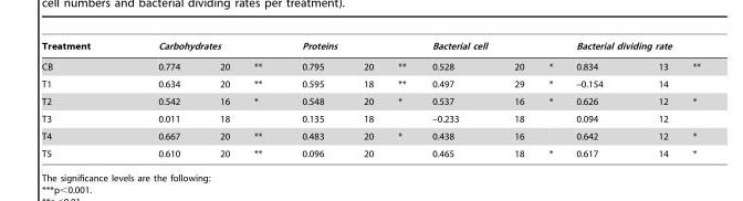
<table><thead><tr><td rowspan="2">Treatment CB</td><td colspan="3">Carbohydrates</td><td colspan="3">Proteins</td><td colspan="3">Bacterial cell</td><td colspan="3">Bacterial dividing rate</td></tr><tr><td>0.774</td><td>20</td><td>**</td><td>0.795</td><td>20</td><td>**</td><td>0.528</td><td>20</td><td>*</td><td>0.834</td><td>13</td><td>**</td></tr></thead><tbody><tr><td>T1</td><td>0.634</td><td>20</td><td>**</td><td>0.595</td><td>18</td><td>**</td><td>0.497</td><td>29</td><td>*</td><td>–0.154</td><td>14</td><td></td></tr><tr><td>T2</td><td>0.542</td><td>16</td><td>*</td><td>0.548</td><td>20</td><td>*</td><td>0.537</td><td>16</td><td>*</td><td>0.626</td><td>12</td><td>*</td></tr><tr><td>T3</td><td>0.011</td><td>18</td><td></td><td>0.135</td><td>18</td><td></td><td>–0.233</td><td>18</td><td></td><td>0.094</td><td>12</td><td></td></tr><tr><td>T4</td><td>0.667</td><td>20</td><td>**</td><td>0.483</td><td>20</td><td>*</td><td>0.438</td><td>16</td><td></td><td>0.642</td><td>12</td><td>*</td></tr><tr><td>T5</td><td>0.610</td><td>20</td><td>**</td><td>0.096</td><td>20</td><td></td><td>0.465</td><td>18</td><td>*</td><td>0.617</td><td>14</td><td>*</td></tr></tbody></table>